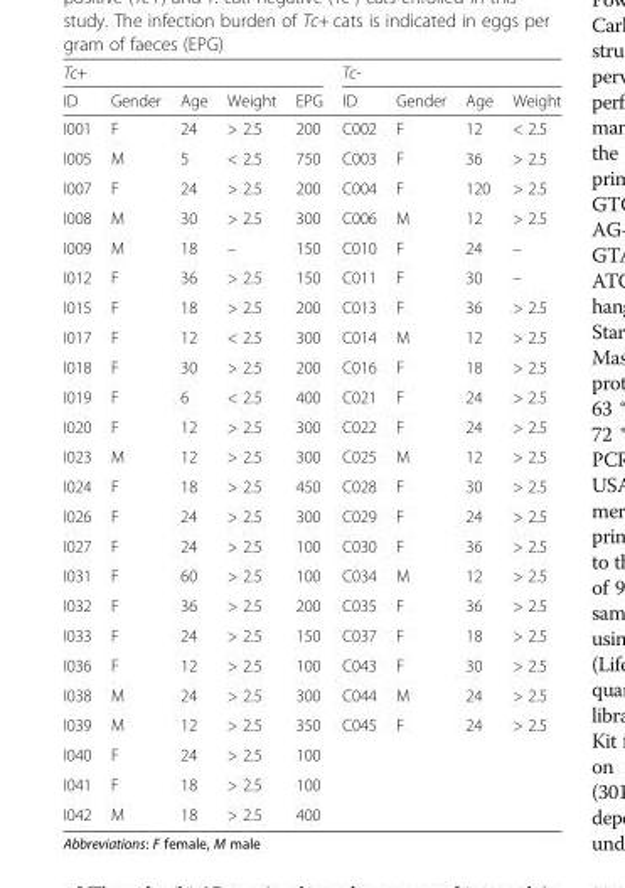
<table><thead><tr><td colspan="5">Tc+</td><td colspan="4">Tc-</td></tr><tr><td>ID</td><td>Gender</td><td>Age</td><td>Weight</td><td>EPG</td><td>ID</td><td>Gender</td><td>Age</td><td>Weight</td></tr></thead><tbody><tr><td>I001</td><td>F</td><td>24</td><td>&gt; 2.5</td><td>200</td><td>C002</td><td>F</td><td>12</td><td>&lt; 2.5</td></tr><tr><td>I005</td><td>M</td><td>5</td><td>&lt; 2.5</td><td>750</td><td>C003</td><td>F</td><td>36</td><td>&gt; 2.5</td></tr><tr><td>I007</td><td>F</td><td>24</td><td>&gt; 2.5</td><td>200</td><td>C004</td><td>F</td><td>120</td><td>&gt; 2.5</td></tr><tr><td>I008</td><td>M</td><td>30</td><td>&gt; 2.5</td><td>300</td><td>C006</td><td>M</td><td>12</td><td>&gt; 2.5</td></tr><tr><td>I009</td><td>M</td><td>18</td><td>–</td><td>150</td><td>C010</td><td>F</td><td>24</td><td>–</td></tr><tr><td>I012</td><td>F</td><td>36</td><td>&gt; 2.5</td><td>150</td><td>C011</td><td>F</td><td>30</td><td>–</td></tr><tr><td>I015</td><td>F</td><td>18</td><td>&gt; 2.5</td><td>200</td><td>C013</td><td>F</td><td>36</td><td>&gt; 2.5</td></tr><tr><td>I017</td><td>F</td><td>12</td><td>&lt; 2.5</td><td>300</td><td>C014</td><td>M</td><td>12</td><td>&gt; 2.5</td></tr><tr><td>I018</td><td>F</td><td>30</td><td>&gt; 2.5</td><td>200</td><td>C016</td><td>F</td><td>18</td><td>&gt; 2.5</td></tr><tr><td>I019</td><td>F</td><td>6</td><td>&lt; 2.5</td><td>400</td><td>C021</td><td>F</td><td>24</td><td>&gt; 2.5</td></tr><tr><td>I020</td><td>F</td><td>12</td><td>&gt; 2.5</td><td>300</td><td>C022</td><td>F</td><td>24</td><td>&gt; 2.5</td></tr><tr><td>I023</td><td>M</td><td>12</td><td>&gt; 2.5</td><td>300</td><td>C025</td><td>M</td><td>12</td><td>&gt; 2.5</td></tr><tr><td>I024</td><td>F</td><td>18</td><td>&gt; 2.5</td><td>450</td><td>C028</td><td>F</td><td>30</td><td>&gt; 2.5</td></tr><tr><td>I026</td><td>F</td><td>24</td><td>&gt; 2.5</td><td>300</td><td>C029</td><td>F</td><td>24</td><td>&gt; 2.5</td></tr><tr><td>I027</td><td>F</td><td>24</td><td>&gt; 2.5</td><td>100</td><td>C030</td><td>F</td><td>36</td><td>&gt; 2.5</td></tr><tr><td>I031</td><td>F</td><td>60</td><td>&gt; 2.5</td><td>100</td><td>C034</td><td>M</td><td>12</td><td>&gt; 2.5</td></tr><tr><td>I032</td><td>F</td><td>36</td><td>&gt; 2.5</td><td>200</td><td>C035</td><td>F</td><td>36</td><td>&gt; 2.5</td></tr><tr><td>I033</td><td>F</td><td>24</td><td>&gt; 2.5</td><td>150</td><td>C037</td><td>F</td><td>18</td><td>&gt; 2.5</td></tr><tr><td>I036</td><td>F</td><td>12</td><td>&gt; 2.5</td><td>100</td><td>C043</td><td>F</td><td>30</td><td>&gt; 2.5</td></tr><tr><td>I038</td><td>M</td><td>24</td><td>&gt; 2.5</td><td>300</td><td>C044</td><td>M</td><td>24</td><td>&gt; 2.5</td></tr><tr><td>I039</td><td>M</td><td>12</td><td>&gt; 2.5</td><td>350</td><td>C045</td><td>F</td><td>24</td><td>&gt; 2.5</td></tr><tr><td>I040</td><td>F</td><td>24</td><td>&gt; 2.5</td><td>100</td><td></td><td></td><td></td><td></td></tr><tr><td>I041</td><td>F</td><td>18</td><td>&gt; 2.5</td><td>100</td><td rowspan="2" colspan="4"></td></tr><tr><td>I042</td><td>M</td><td>18</td><td>&gt; 2.5</td><td>400</td></tr></tbody></table>